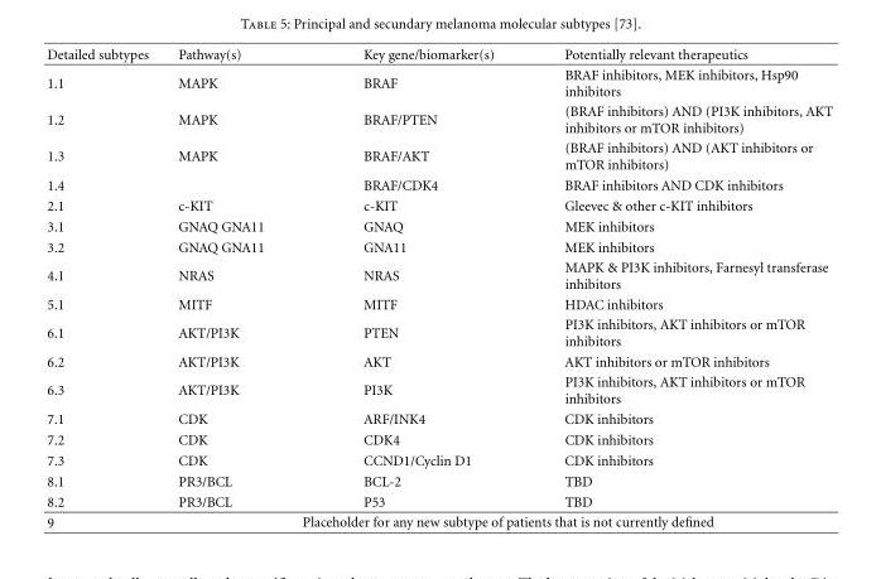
<table><thead><tr><td>Detailed subtypes</td><td>Pathway(s)</td><td>Key gene/biomarker(s)</td><td>Potentially relevant therapeutics</td></tr></thead><tbody><tr><td>1.1</td><td>MAPK</td><td>BRAF</td><td>BRAF inhibitors, MEK inhibitors, Hsp90 inhibitors</td></tr><tr><td>1.2</td><td>MAPK</td><td>BRAF/PTEN</td><td>(BRAF inhibitors) AND (PI3K inhibitors, AKT inhibitors or mTOR inhibitors)</td></tr><tr><td>1.3</td><td>MAPK</td><td>BRAF/AKT</td><td>(BRAF inhibitors) AND (AKT inhibitors or mTOR inhibitors)</td></tr><tr><td>1.4</td><td></td><td>BRAF/CDK4</td><td>BRAF inhibitors AND CDK inhibitors</td></tr><tr><td>2.1</td><td>c-KIT</td><td>c-KIT</td><td>Gleevec &amp; other c-KIT inhibitors</td></tr><tr><td>3.1</td><td>GNAQ GNA11</td><td>GNAQ</td><td>MEK inhibitors</td></tr><tr><td>3.2</td><td>GNAQ GNA11</td><td>GNA11</td><td>MEK inhibitors</td></tr><tr><td>4.1</td><td>NRAS</td><td>NRAS</td><td>MAPK &amp; PI3K inhibitors, Farnesyl transferase inhibitors</td></tr><tr><td>5.1</td><td>MITF</td><td>MITF</td><td>HDAC inhibitors</td></tr><tr><td>6.1</td><td>AKT/PI3K</td><td>PTEN</td><td>PI3K inhibitors, AKT inhibitors or mTOR inhibitors</td></tr><tr><td>6.2</td><td>AKT/PI3K</td><td>AKT</td><td>AKT inhibitors or mTOR inhibitors</td></tr><tr><td>6.3</td><td>AKT/PI3K</td><td>PI3K</td><td>PI3K inhibitors, AKT inhibitors or mTOR inhibitors</td></tr><tr><td>7.1</td><td>CDK</td><td>ARF/INK4</td><td>CDK inhibitors</td></tr><tr><td>7.2</td><td>CDK</td><td>CDK4</td><td>CDK inhibitors</td></tr><tr><td>7.3</td><td>CDK</td><td>CCND1/Cyclin D1</td><td>CDK inhibitors</td></tr><tr><td>8.1</td><td>PR3/BCL</td><td>BCL-2</td><td>TBD</td></tr><tr><td>8.2</td><td>PR3/BCL</td><td>P53</td><td>TBD</td></tr><tr><td>9</td><td colspan="3">Placeholder for any new subtype of patients that is not currently defined</td></tr></tbody></table>